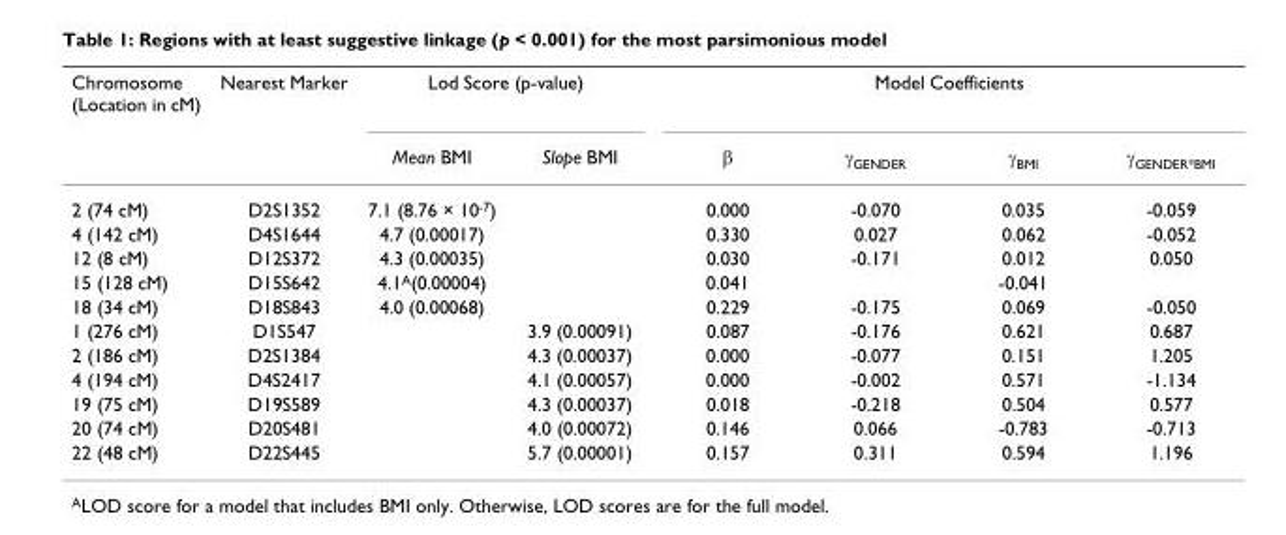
<table><thead><tr><td rowspan="2">Chromosome (Location in cM)</td><td rowspan="2">Nearest Marker</td><td colspan="2">Lod Score (p-value)</td><td colspan="4">Model Coefficients</td></tr><tr><td>Mean BMI</td><td>Slope BMI</td><td>β</td><td>γGENDER</td><td>γBMI</td><td>γGENDER*BMI</td></tr></thead><tbody><tr><td>2 (74 cM)</td><td>D2S1352</td><td>7.1 (8.76 × 10-7)</td><td></td><td>0.000</td><td>-0.070</td><td>0.035</td><td>-0.059</td></tr><tr><td>4 (142 cM)</td><td>D4S1644</td><td>4.7 (0.00017)</td><td></td><td>0.330</td><td>0.027</td><td>0.062</td><td>-0.052</td></tr><tr><td>12 (8 cM)</td><td>D12S372</td><td>4.3 (0.00035)</td><td></td><td>0.030</td><td>-0.171</td><td>0.012</td><td>0.050</td></tr><tr><td>15 (128 cM)</td><td>D15S642</td><td>4.1A(0.00004)</td><td></td><td>0.041</td><td></td><td>-0.041</td><td></td></tr><tr><td>18 (34 cM)</td><td>D18S843</td><td>4.0 (0.00068)</td><td></td><td>0.229</td><td>-0.175</td><td>0.069</td><td>-0.050</td></tr><tr><td>1 (276 cM)</td><td>D1S547</td><td></td><td>3.9 (0.00091)</td><td>0.087</td><td>-0.176</td><td>0.621</td><td>0.687</td></tr><tr><td>2 (186 cM)</td><td>D2S1384</td><td></td><td>4.3 (0.00037)</td><td>0.000</td><td>-0.077</td><td>0.151</td><td>1.205</td></tr><tr><td>4 (194 cM)</td><td>D4S2417</td><td></td><td>4.1 (0.00057)</td><td>0.000</td><td>-0.002</td><td>0.571</td><td>-1.134</td></tr><tr><td>19 (75 cM)</td><td>D19S589</td><td></td><td>4.3 (0.00037)</td><td>0.018</td><td>-0.218</td><td>0.504</td><td>0.577</td></tr><tr><td>20 (74 cM)</td><td>D20S481</td><td></td><td>4.0 (0.00072)</td><td>0.146</td><td>0.066</td><td>-0.783</td><td>-0.713</td></tr><tr><td>22 (48 cM)</td><td>D22S445</td><td></td><td>5.7 (0.00001)</td><td>0.157</td><td>0.311</td><td>0.594</td><td>1.196</td></tr></tbody></table>